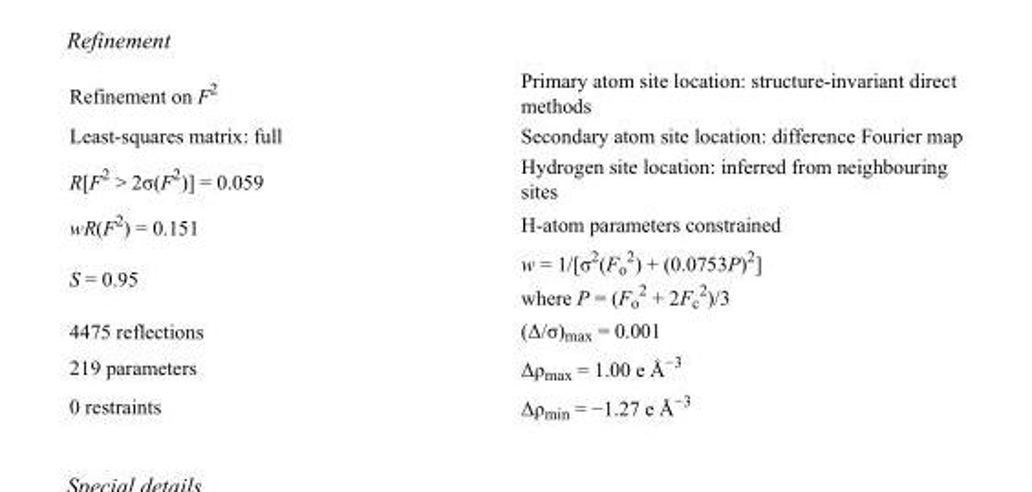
<table><tbody><tr><td>Refinement on F<sup>2</sup></td><td>Primary atom site location: structure-invariant direct methods</td></tr><tr><td>Least-squares matrix: full</td><td>Secondary atom site location: difference Fourier map</td></tr><tr><td>R[F<sup>2</sup> &gt; 2σ(F<sup>2</sup>)] = 0.059</td><td>Hydrogen site location: inferred from neighbouring sites</td></tr><tr><td>wR(F<sup>2</sup>) = 0.151</td><td>H-atom parameters constrained</td></tr><tr><td>S = 0.95</td><td>w = 1/[σ<sup>2</sup>(F<sub>o</sub> <sup>2</sup>) + (0.0753P)<sup>2</sup>] where P = (F<sub>o</sub> <sup>2</sup> + 2F<sub>c</sub> <sup>2</sup>)/3</td></tr><tr><td>4475 reflections</td><td>(Δ/σ)<sub>max</sub> = 0.001</td></tr><tr><td>219 parameters</td><td>Δρ<sub>max</sub> = 1.00 e Å<sup>−3</sup></td></tr><tr><td>0 restraints</td><td>Δρ<sub>min</sub> = −1.27 e Å<sup>−3</sup></td></tr></tbody></table>